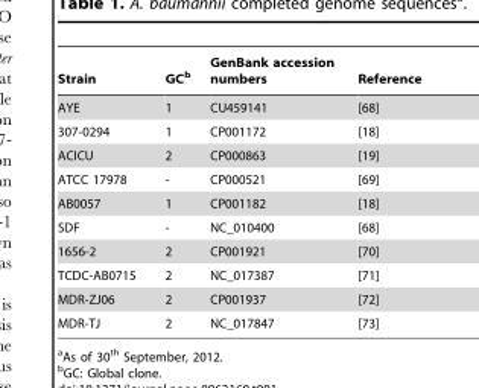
<table><thead><tr><td>Strain</td><td>GC<sup>b</sup></td><td>GenBank accession numbers</td><td>Reference</td></tr></thead><tbody><tr><td>AYE</td><td>1</td><td>CU459141</td><td>[68]</td></tr><tr><td>307-0294</td><td>1</td><td>CP001172</td><td>[18]</td></tr><tr><td>ACICU</td><td>2</td><td>CP000863</td><td>[19]</td></tr><tr><td>ATCC 17978</td><td>-</td><td>CP000521</td><td>[69]</td></tr><tr><td>AB0057</td><td>1</td><td>CP001182</td><td>[18]</td></tr><tr><td>SDF</td><td>-</td><td>NC_010400</td><td>[68]</td></tr><tr><td>1656-2</td><td>2</td><td>CP001921</td><td>[70]</td></tr><tr><td>TCDC-AB0715</td><td>2</td><td>NC_017387</td><td>[71]</td></tr><tr><td>MDR-ZJ06</td><td>2</td><td>CP001937</td><td>[72]</td></tr><tr><td>MDR-TJ</td><td>2</td><td>NC_017847</td><td>[73]</td></tr></tbody></table>